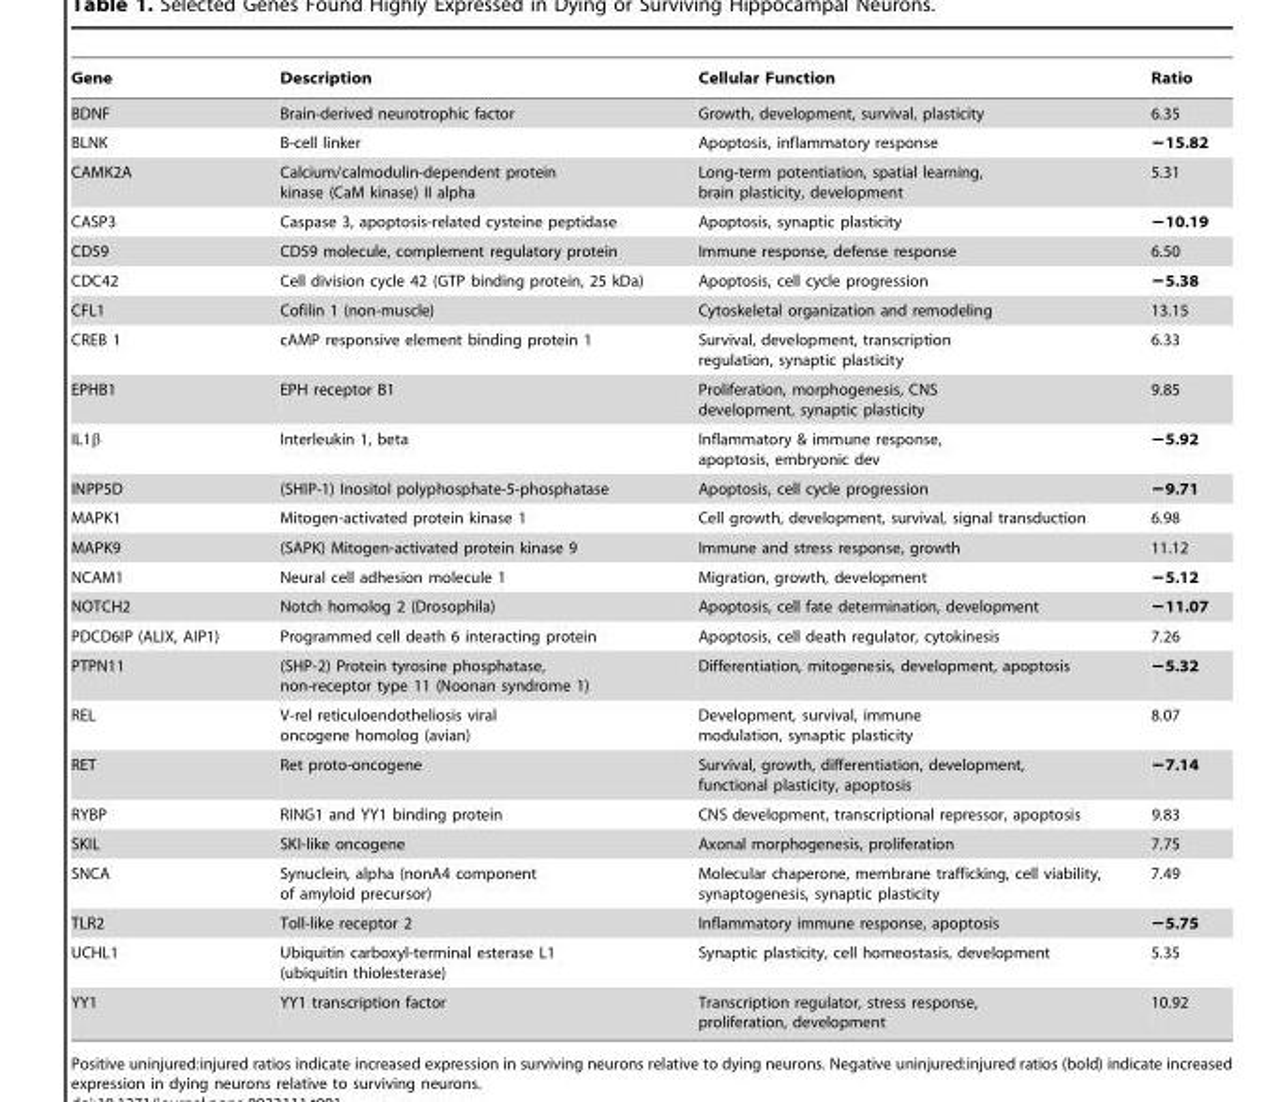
<table><thead><tr><td>Gene</td><td>Description</td><td>Cellular Function</td><td>Ratio</td></tr></thead><tbody><tr><td>BDNF</td><td>Brain-derived neurotrophic factor</td><td>Growth, development, survival, plasticity</td><td>6.35</td></tr><tr><td>BLNK</td><td>B-cell linker</td><td>Apoptosis, inflammatory response</td><td>−15.82</td></tr><tr><td>CAMK2A</td><td>Calcium/calmodulin-dependent protein kinase (CaM kinase) II alpha</td><td>Long-term potentiation, spatial learning, brain plasticity, development</td><td>5.31</td></tr><tr><td>CASP3</td><td>Caspase 3, apoptosis-related cysteine peptidase</td><td>Apoptosis, synaptic plasticity</td><td>−10.19</td></tr><tr><td>CD59</td><td>CD59 molecule, complement regulatory protein</td><td>Immune response, defense response</td><td>6.50</td></tr><tr><td>CDC42</td><td>Cell division cycle 42 (GTP binding protein, 25 kDa)</td><td>Apoptosis, cell cycle progression</td><td>−5.38</td></tr><tr><td>CFL1</td><td>Cofilin 1 (non-muscle)</td><td>Cytoskeletal organization and remodeling</td><td>13.15</td></tr><tr><td>CREB 1</td><td>cAMP responsive element binding protein 1</td><td>Survival, development, transcription regulation, synaptic plasticity</td><td>6.33</td></tr><tr><td>EPHB1</td><td>EPH receptor B1</td><td>Proliferation, morphogenesis, CNS development, synaptic plasticity</td><td>9.85</td></tr><tr><td>IL1β</td><td>Interleukin 1, beta</td><td>Inflammatory &amp; immune response, apoptosis, embryonic dev</td><td>−5.92</td></tr><tr><td>INPP5D</td><td>(SHIP-1) Inositol polyphosphate-5-phosphatase</td><td>Apoptosis, cell cycle progression</td><td>−9.71</td></tr><tr><td>MAPK1</td><td>Mitogen-activated protein kinase 1</td><td>Cell growth, development, survival, signal transduction</td><td>6.98</td></tr><tr><td>MAPK9</td><td>(SAPK) Mitogen-activated protein kinase 9</td><td>Immune and stress response, growth</td><td>11.12</td></tr><tr><td>NCAM1</td><td>Neural cell adhesion molecule 1</td><td>Migration, growth, development</td><td>−5.12</td></tr><tr><td>NOTCH2</td><td>Notch homolog 2 (Drosophila)</td><td>Apoptosis, cell fate determination, development</td><td>−11.07</td></tr><tr><td>PDCD6IP (ALIX, AIP1)</td><td>Programmed cell death 6 interacting protein</td><td>Apoptosis, cell death regulator, cytokinesis</td><td>7.26</td></tr><tr><td>PTPN11</td><td>(SHP-2) Protein tyrosine phosphatase, non-receptor type 11 (Noonan syndrome 1)</td><td>Differentiation, mitogenesis, development, apoptosis</td><td>−5.32</td></tr><tr><td>REL</td><td>V-rel reticuloendotheliosis viral oncogene homolog (avian)</td><td>Development, survival, immune modulation, synaptic plasticity</td><td>8.07</td></tr><tr><td>RET</td><td>Ret proto-oncogene</td><td>Survival, growth, differentiation, development, functional plasticity, apoptosis</td><td>−7.14</td></tr><tr><td>RYBP</td><td>RING1 and YY1 binding protein</td><td>CNS development, transcriptional repressor, apoptosis</td><td>9.83</td></tr><tr><td>SKIL</td><td>SKI-like oncogene</td><td>Axonal morphogenesis, proliferation</td><td>7.75</td></tr><tr><td>SNCA</td><td>Synuclein, alpha (nonA4 component of amyloid precursor)</td><td>Molecular chaperone, membrane trafficking, cell viability, synaptogenesis, synaptic plasticity</td><td>7.49</td></tr><tr><td>TLR2</td><td>Toll-like receptor 2</td><td>Inflammatory immune response, apoptosis</td><td>−5.75</td></tr><tr><td>UCHL1</td><td>Ubiquitin carboxyl-terminal esterase L1 (ubiquitin thiolesterase)</td><td>Synaptic plasticity, cell homeostasis, development</td><td>5.35</td></tr><tr><td>YY1</td><td>YY1 transcription factor</td><td>Transcription regulator, stress response, proliferation, development</td><td>10.92</td></tr></tbody></table>